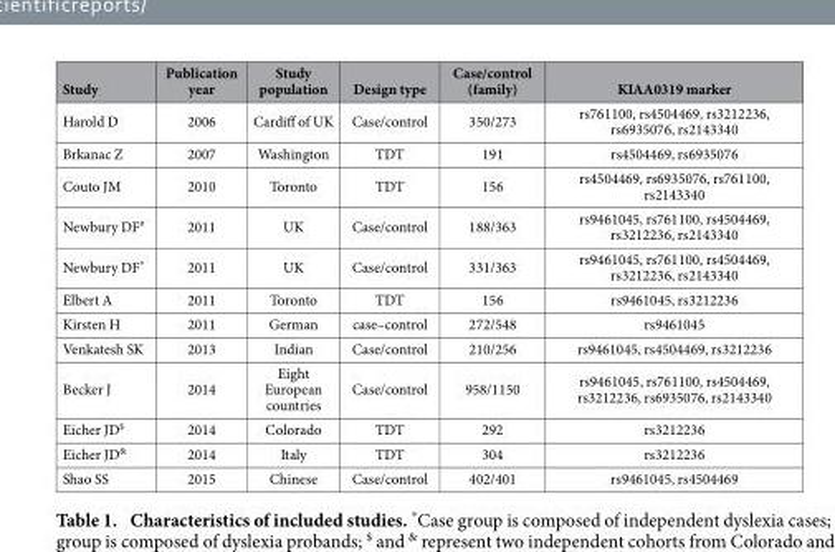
<table><thead><tr><td>Study</td><td>Publication year</td><td>Study population</td><td>Design type</td><td>Case/control (family)</td><td>KIAA0319 marker</td></tr></thead><tbody><tr><td>Harold D</td><td>2006</td><td>Cardiff of UK</td><td>Case/control</td><td>350/273</td><td>rs761100, rs4504469, rs3212236, rs6935076, rs2143340</td></tr><tr><td>Brkanac Z</td><td>2007</td><td>Washington</td><td>TDT</td><td>191</td><td>rs4504469, rs6935076</td></tr><tr><td>Couto JM</td><td>2010</td><td>Toronto</td><td>TDT</td><td>156</td><td>rs4504469, rs6935076, rs761100, rs2143340</td></tr><tr><td>Newbury DF<sup>#</sup></td><td>2011</td><td>UK</td><td>Case/control</td><td>188/363</td><td>rs9461045, rs761100, rs4504469, rs3212236, rs2143340</td></tr><tr><td>Newbury DF*</td><td>2011</td><td>UK</td><td>Case/control</td><td>331/363</td><td>rs9461045, rs761100, rs4504469, rs3212236, rs2143340</td></tr><tr><td>Elbert A</td><td>2011</td><td>Toronto</td><td>TDT</td><td>156</td><td>rs9461045, rs3212236</td></tr><tr><td>Kirsten H</td><td>2011</td><td>German</td><td>case–control</td><td>272/548</td><td>rs9461045</td></tr><tr><td>Venkatesh SK</td><td>2013</td><td>Indian</td><td>Case/control</td><td>210/256</td><td>rs9461045, rs4504469, rs3212236</td></tr><tr><td>Becker J</td><td>2014</td><td>Eight European countries</td><td>Case/control</td><td>958/1150</td><td>rs9461045, rs761100, rs4504469, rs3212236, rs6935076, rs2143340</td></tr><tr><td>Eicher JD<sup>$</sup></td><td>2014</td><td>Colorado</td><td>TDT</td><td>292</td><td>rs3212236</td></tr><tr><td>Eicher JD<sup>&amp;</sup></td><td>2014</td><td>Italy</td><td>TDT</td><td>304</td><td>rs3212236</td></tr><tr><td>Shao SS</td><td>2015</td><td>Chinese</td><td>Case/control</td><td>402/401</td><td>rs9461045, rs4504469</td></tr></tbody></table>